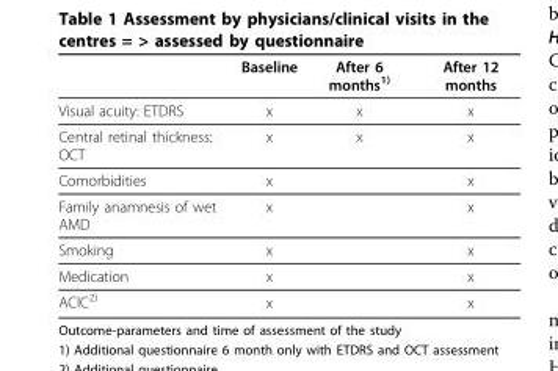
<table><thead><tr><td></td><td>Baseline</td><td>After 6 months1)</td><td>After 12 months</td></tr></thead><tbody><tr><td>Visual acuity: ETDRS</td><td>x</td><td>x</td><td>x</td></tr><tr><td>Central retinal thickness: OCT</td><td>x</td><td>x</td><td>x</td></tr><tr><td>Comorbidities</td><td>x</td><td></td><td>x</td></tr><tr><td>Family anamnesis of wet AMD</td><td>x</td><td></td><td>x</td></tr><tr><td>Smoking</td><td>x</td><td></td><td>x</td></tr><tr><td>Medication</td><td>x</td><td></td><td>x</td></tr><tr><td>ACIC2)</td><td>x</td><td></td><td>x</td></tr></tbody></table>